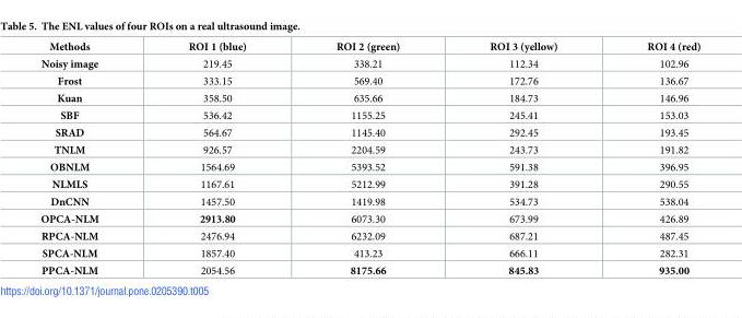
<table><thead><tr><td>Methods</td><td>ROI 1 (blue)</td><td>ROI 2 (green)</td><td>ROI 3 (yellow)</td><td>ROI 4 (red)</td></tr></thead><tbody><tr><td>Noisy image</td><td>219.45</td><td>338.21</td><td>112.34</td><td>102.96</td></tr><tr><td>Frost</td><td>333.15</td><td>569.40</td><td>172.76</td><td>136.67</td></tr><tr><td>Kuan</td><td>358.50</td><td>635.66</td><td>184.73</td><td>146.96</td></tr><tr><td>SBF</td><td>536.42</td><td>1155.25</td><td>245.41</td><td>153.03</td></tr><tr><td>SRAD</td><td>564.67</td><td>1145.40</td><td>292.45</td><td>193.45</td></tr><tr><td>TNLM</td><td>926.57</td><td>2204.59</td><td>243.73</td><td>191.82</td></tr><tr><td>OBNLM</td><td>1564.69</td><td>5393.52</td><td>591.38</td><td>396.95</td></tr><tr><td>NLMLS</td><td>1167.61</td><td>5212.99</td><td>391.28</td><td>290.55</td></tr><tr><td>DnCNN</td><td>1457.50</td><td>1419.98</td><td>534.73</td><td>538.04</td></tr><tr><td>OPCA-NLM</td><td>2913.80</td><td>6073.30</td><td>673.99</td><td>426.89</td></tr><tr><td>RPCA-NLM</td><td>2476.94</td><td>6232.09</td><td>687.21</td><td>487.45</td></tr><tr><td>SPCA-NLM</td><td>1857.40</td><td>413.23</td><td>666.11</td><td>282.31</td></tr><tr><td>PPCA-NLM</td><td>2054.56</td><td>8175.66</td><td>845.83</td><td>935.00</td></tr></tbody></table>